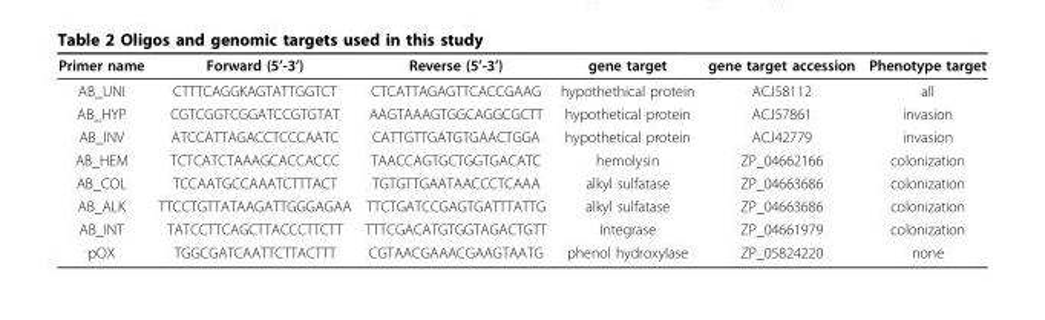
<table><thead><tr><td>Primer name</td><td>Forward (5’-3’)</td><td>Reverse (5’-3’)</td><td>gene target</td><td>gene target accession</td><td>Phenotype target</td></tr></thead><tbody><tr><td>AB_UNI</td><td>CTTTCAGGKAGTATTGGTCT</td><td>CTCATTAGAGTTCACCGAAG</td><td>hypothethical protein</td><td>ACJ58112</td><td>all</td></tr><tr><td>AB_HYP</td><td>CGTCGGTCGGATCCGTGTAT</td><td>AAGTAAAGTGGCAGGCGCTT</td><td>hypothetical protein</td><td>ACJ57861</td><td>invasion</td></tr><tr><td>AB_INV</td><td>ATCCATTAGACCTCCCAATC</td><td>CATTGTTGATGTGAACTGGA</td><td>hypothetical protein</td><td>ACJ42779</td><td>invasion</td></tr><tr><td>AB_HEM</td><td>TCTCATCTAAAGCACCACCC</td><td>TAACCAGTGCTGGTGACATC</td><td>hemolysin</td><td>ZP_04662166</td><td>colonization</td></tr><tr><td>AB_COL</td><td>TCCAATGCCAAATCTTTACT</td><td>TGTGTTGAATAACCCTCAAA</td><td>alkyl sulfatase</td><td>ZP_04663686</td><td>colonization</td></tr><tr><td>AB_ALK</td><td>TTCCTGTTATAAGATTGGGAGAA</td><td>TTCTGATCCGAGTGATTTATTG</td><td>alkyl sulfatase</td><td>ZP_04663686</td><td>colonization</td></tr><tr><td>AB_INT</td><td>TATCCTTCAGCTTACCCTTCTT</td><td>TTTCGACATGTGGTAGACTGTT</td><td>Integrase</td><td>ZP_04661979</td><td>colonization</td></tr><tr><td>pOX</td><td>TGGCGATCAATTCTTACTTT</td><td>CGTAACGAAACGAAGTAATG</td><td>phenol hydroxylase</td><td>ZP_05824220</td><td>none</td></tr></tbody></table>